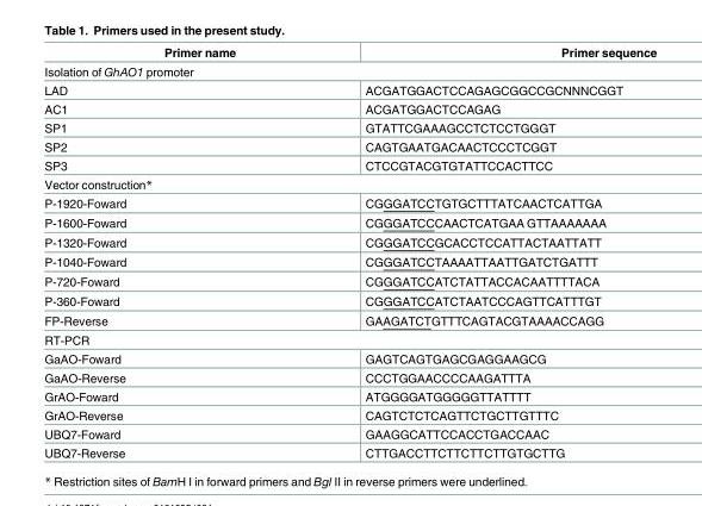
<table><thead><tr><td>Primer name</td><td>Primer sequence</td></tr></thead><tbody><tr><td colspan="2">Isolation of GhAO1 promoter</td></tr><tr><td>LAD</td><td>ACGATGGACTCCAGAGCGGCCGCNNNCGGT</td></tr><tr><td>AC1</td><td>ACGATGGACTCCAGAG</td></tr><tr><td>SP1</td><td>GTATTCGAAAGCCTCTCCTGGGT</td></tr><tr><td>SP2</td><td>CAGTGAATGACAACTCCCTCGGT</td></tr><tr><td>SP3</td><td>CTCCGTACGTGTATTCCACTTCC</td></tr><tr><td colspan="2">Vector construction*</td></tr><tr><td>P-1920-Foward</td><td>CGGGATCCTGTGCTTTATCAACTCATTGA</td></tr><tr><td>P-1600-Foward</td><td>CGGGATCCCAACTCATGAA GTTAAAAAAA</td></tr><tr><td>P-1320-Foward</td><td>CGGGATCCGCACCTCCATTACTAATTATT</td></tr><tr><td>P-1040-Foward</td><td>CGGGATCCTAAAATTAATTGATCTGATTT</td></tr><tr><td>P-720-Foward</td><td>CGGGATCCATCTATTACCACAATTTTACA</td></tr><tr><td>P-360-Foward</td><td>CGGGATCCATCTAATCCCAGTTCATTTGT</td></tr><tr><td>FP-Reverse</td><td>GAAGATCTGTTTCAGTACGTAAAACCAGG</td></tr><tr><td colspan="2">RT-PCR</td></tr><tr><td>GaAO-Foward</td><td>GAGTCAGTGAGCGAGGAAGCG</td></tr><tr><td>GaAO-Reverse</td><td>CCCTGGAACCCCAAGATTTA</td></tr><tr><td>GrAO-Foward</td><td>ATGGGGATGGGGGTTATTTT</td></tr><tr><td>GrAO-Reverse</td><td>CAGTCTCTCAGTTCTGCTTGTTTC</td></tr><tr><td>UBQ7-Foward</td><td>GAAGGCATTCCACCTGACCAAC</td></tr><tr><td>UBQ7-Reverse</td><td>CTTGACCTTCTTCTTCTTGTGCTTG</td></tr></tbody></table>